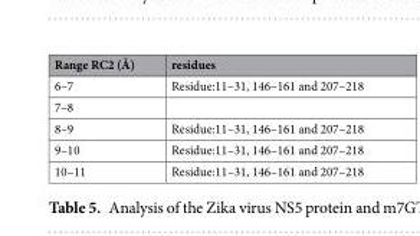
<table><thead><tr><td>Range RC2 (Å)</td><td>residues</td></tr></thead><tbody><tr><td>6–7</td><td>Residue:11–31, 146–161 and 207–218</td></tr><tr><td colspan="2">7–8</td></tr><tr><td>8–9</td><td>Residue:11–31, 146–161 and 207–218</td></tr><tr><td>9–10</td><td>Residue:11–31, 146–161 and 207–218</td></tr><tr><td>10–11</td><td>Residue:11–31, 146–161 and 207–218</td></tr></tbody></table>